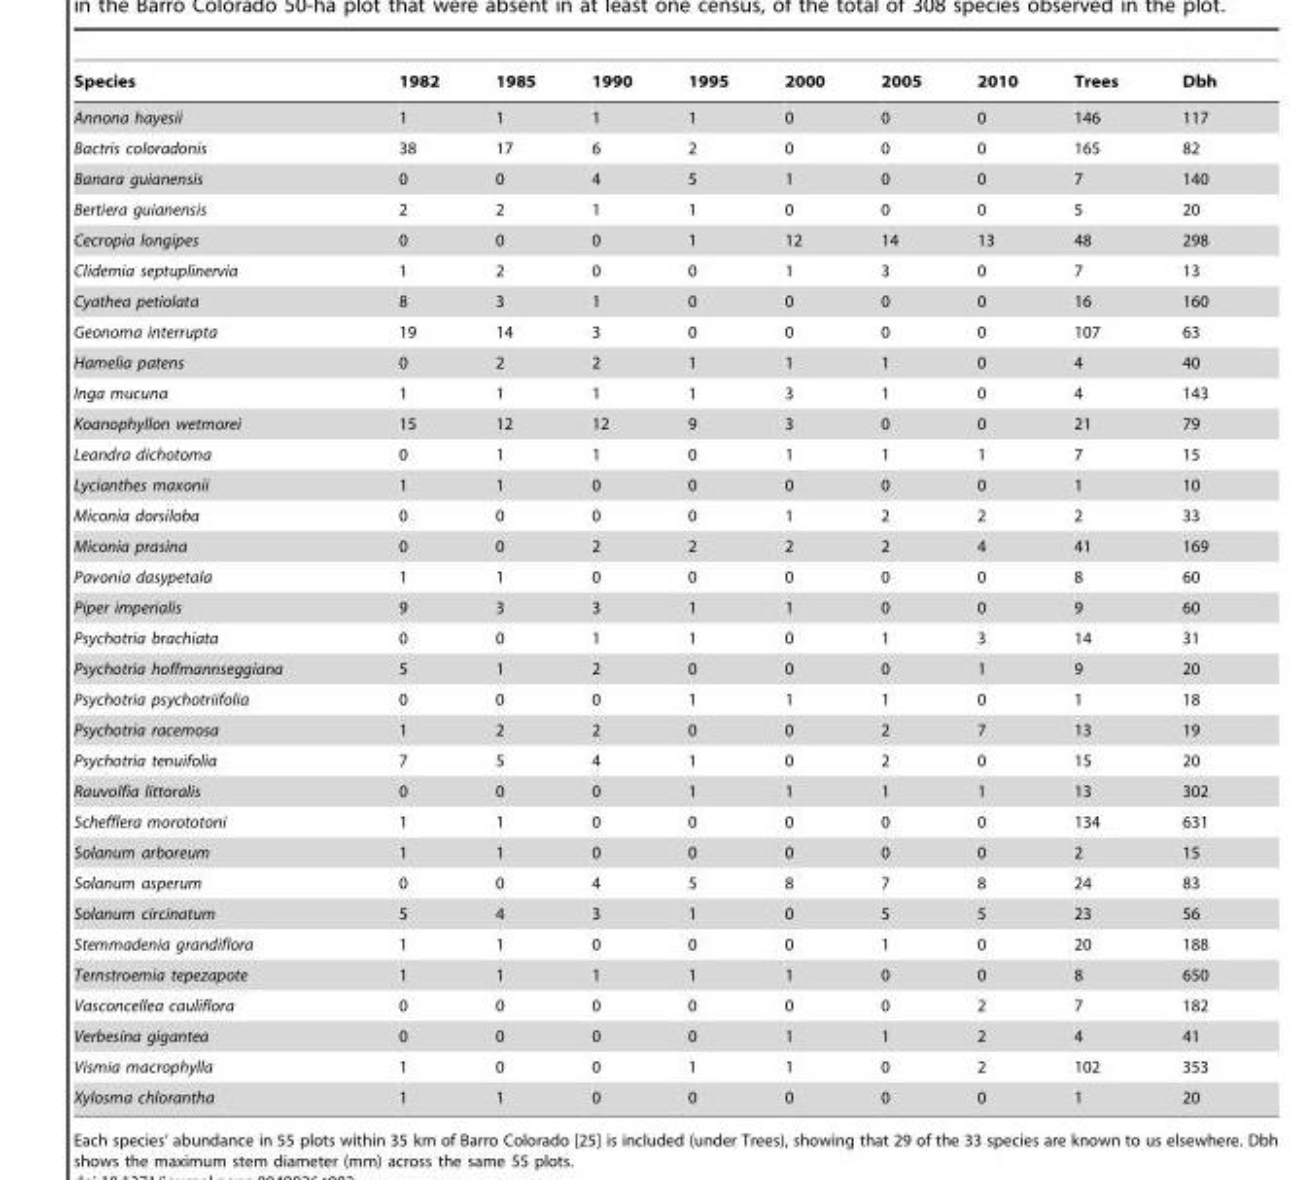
<table><thead><tr><td>Species</td><td>1982</td><td>1985</td><td>1990</td><td>1995</td><td>2000</td><td>2005</td><td>2010</td><td>Trees</td><td>Dbh</td></tr></thead><tbody><tr><td>Annona hayesii</td><td>1</td><td>1</td><td>1</td><td>1</td><td>0</td><td>0</td><td>0</td><td>146</td><td>117</td></tr><tr><td>Bactris coloradonis</td><td>38</td><td>17</td><td>6</td><td>2</td><td>0</td><td>0</td><td>0</td><td>165</td><td>82</td></tr><tr><td>Banara guianensis</td><td>0</td><td>0</td><td>4</td><td>5</td><td>1</td><td>0</td><td>0</td><td>7</td><td>140</td></tr><tr><td>Bertiera guianensis</td><td>2</td><td>2</td><td>1</td><td>1</td><td>0</td><td>0</td><td>0</td><td>5</td><td>20</td></tr><tr><td>Cecropia longipes</td><td>0</td><td>0</td><td>0</td><td>1</td><td>12</td><td>14</td><td>13</td><td>48</td><td>298</td></tr><tr><td>Clidemia septuplinervia</td><td>1</td><td>2</td><td>0</td><td>0</td><td>1</td><td>3</td><td>0</td><td>7</td><td>13</td></tr><tr><td>Cyathea petiolata</td><td>8</td><td>3</td><td>1</td><td>0</td><td>0</td><td>0</td><td>0</td><td>16</td><td>160</td></tr><tr><td>Geonoma interrupta</td><td>19</td><td>14</td><td>3</td><td>0</td><td>0</td><td>0</td><td>0</td><td>107</td><td>63</td></tr><tr><td>Hamelia patens</td><td>0</td><td>2</td><td>2</td><td>1</td><td>1</td><td>1</td><td>0</td><td>4</td><td>40</td></tr><tr><td>Inga mucuna</td><td>1</td><td>1</td><td>1</td><td>1</td><td>3</td><td>1</td><td>0</td><td>4</td><td>143</td></tr><tr><td>Koanophyllon wetmorei</td><td>15</td><td>12</td><td>12</td><td>9</td><td>3</td><td>0</td><td>0</td><td>21</td><td>79</td></tr><tr><td>Leandra dichotoma</td><td>0</td><td>1</td><td>1</td><td>0</td><td>1</td><td>1</td><td>1</td><td>7</td><td>15</td></tr><tr><td>Lycianthes maxonii</td><td>1</td><td>1</td><td>0</td><td>0</td><td>0</td><td>0</td><td>0</td><td>1</td><td>10</td></tr><tr><td>Miconia dorsiloba</td><td>0</td><td>0</td><td>0</td><td>0</td><td>1</td><td>2</td><td>2</td><td>2</td><td>33</td></tr><tr><td>Miconia prasina</td><td>0</td><td>0</td><td>2</td><td>2</td><td>2</td><td>2</td><td>4</td><td>41</td><td>169</td></tr><tr><td>Pavonia dasypetala</td><td>1</td><td>1</td><td>0</td><td>0</td><td>0</td><td>0</td><td>0</td><td>8</td><td>60</td></tr><tr><td>Piper imperialis</td><td>9</td><td>3</td><td>3</td><td>1</td><td>1</td><td>0</td><td>0</td><td>9</td><td>60</td></tr><tr><td>Psychotria brachiata</td><td>0</td><td>0</td><td>1</td><td>1</td><td>0</td><td>1</td><td>3</td><td>14</td><td>31</td></tr><tr><td>Psychotria hoffmannseggiana</td><td>5</td><td>1</td><td>2</td><td>0</td><td>0</td><td>0</td><td>1</td><td>9</td><td>20</td></tr><tr><td>Psychotria psychotriifolia</td><td>0</td><td>0</td><td>0</td><td>1</td><td>1</td><td>1</td><td>0</td><td>1</td><td>18</td></tr><tr><td>Psychotria racemosa</td><td>1</td><td>2</td><td>2</td><td>0</td><td>0</td><td>2</td><td>7</td><td>13</td><td>19</td></tr><tr><td>Psychotria tenuifolia</td><td>7</td><td>5</td><td>4</td><td>1</td><td>0</td><td>2</td><td>0</td><td>15</td><td>20</td></tr><tr><td>Rauvolfia littoralis</td><td>0</td><td>0</td><td>0</td><td>1</td><td>1</td><td>1</td><td>1</td><td>13</td><td>302</td></tr><tr><td>Schefflera morototoni</td><td>1</td><td>1</td><td>0</td><td>0</td><td>0</td><td>0</td><td>0</td><td>134</td><td>631</td></tr><tr><td>Solanum arboreum</td><td>1</td><td>1</td><td>0</td><td>0</td><td>0</td><td>0</td><td>0</td><td>2</td><td>15</td></tr><tr><td>Solanum asperum</td><td>0</td><td>0</td><td>4</td><td>5</td><td>8</td><td>7</td><td>8</td><td>24</td><td>83</td></tr><tr><td>Solanum circinatum</td><td>5</td><td>4</td><td>3</td><td>1</td><td>0</td><td>5</td><td>5</td><td>23</td><td>56</td></tr><tr><td>Stemmadenia grandiflora</td><td>1</td><td>1</td><td>0</td><td>0</td><td>0</td><td>1</td><td>0</td><td>20</td><td>188</td></tr><tr><td>Ternstroemia tepezapote</td><td>1</td><td>1</td><td>1</td><td>1</td><td>1</td><td>0</td><td>0</td><td>8</td><td>650</td></tr><tr><td>Vasconcellea cauliflora</td><td>0</td><td>0</td><td>0</td><td>0</td><td>0</td><td>0</td><td>2</td><td>7</td><td>182</td></tr><tr><td>Verbesina gigantea</td><td>0</td><td>0</td><td>0</td><td>0</td><td>1</td><td>1</td><td>2</td><td>4</td><td>41</td></tr><tr><td>Vismia macrophylla</td><td>1</td><td>0</td><td>0</td><td>1</td><td>1</td><td>0</td><td>2</td><td>102</td><td>353</td></tr><tr><td>Xylosma chlorantha</td><td>1</td><td>1</td><td>0</td><td>0</td><td>0</td><td>0</td><td>0</td><td>1</td><td>20</td></tr></tbody></table>